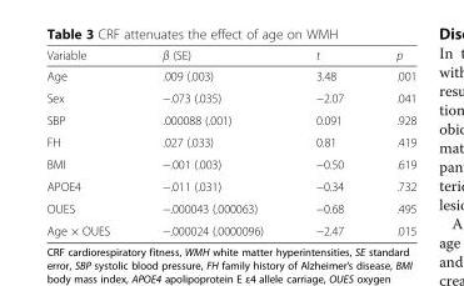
<table><thead><tr><td>Variable</td><td>β (SE)</td><td>t</td><td>p</td></tr></thead><tbody><tr><td>Age</td><td>.009 (.003)</td><td>3.48</td><td>.001</td></tr><tr><td>Sex</td><td>−.073 (.035)</td><td>−2.07</td><td>.041</td></tr><tr><td>SBP</td><td>.000088 (.001)</td><td>0.091</td><td>.928</td></tr><tr><td>FH</td><td>.027 (.033)</td><td>0.81</td><td>.419</td></tr><tr><td>BMI</td><td>−.001 (.003)</td><td>−0.50</td><td>.619</td></tr><tr><td>APOE4</td><td>−.011 (.031)</td><td>−0.34</td><td>.732</td></tr><tr><td>OUES</td><td>−.000043 (.000063)</td><td>−0.68</td><td>.495</td></tr><tr><td>Age × OUES</td><td>−.000024 (.0000096)</td><td>−2.47</td><td>.015</td></tr></tbody></table>